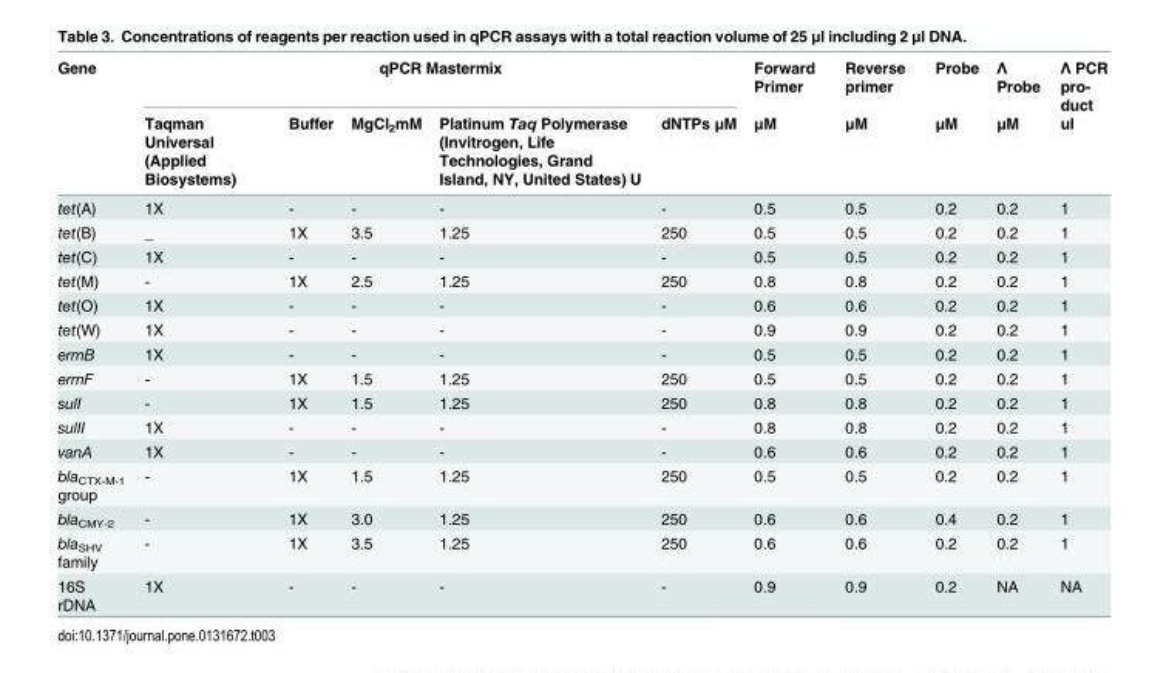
<table><thead><tr><td rowspan="2">Gene</td><td colspan="5">qPCR Mastermix</td><td rowspan="2">Forward Primer μM</td><td rowspan="2">Reverse primer μM</td><td rowspan="2">Probe μM</td><td rowspan="2">Λ Probe μM</td><td rowspan="2">Λ PCR pro- duct ul</td></tr><tr><td>Taqman Universal (Applied Biosystems)</td><td>Buffer</td><td>MgCl<sub>2</sub>mM</td><td>Platinum Taq Polymerase (Invitrogen, Life Technologies, Grand Island, NY, United States) U</td><td>dNTPs μM</td></tr></thead><tbody><tr><td>tet(A)</td><td>1X</td><td>-</td><td>-</td><td>-</td><td>-</td><td>0.5</td><td>0.5</td><td>0.2</td><td>0.2</td><td>1</td></tr><tr><td>tet(B)</td><td>_</td><td>1X</td><td>3.5</td><td>1.25</td><td>250</td><td>0.5</td><td>0.5</td><td>0.2</td><td>0.2</td><td>1</td></tr><tr><td>tet(C)</td><td>1X</td><td>-</td><td>-</td><td>-</td><td>-</td><td>0.5</td><td>0.5</td><td>0.2</td><td>0.2</td><td>1</td></tr><tr><td>tet(M)</td><td>-</td><td>1X</td><td>2.5</td><td>1.25</td><td>250</td><td>0.8</td><td>0.8</td><td>0.2</td><td>0.2</td><td>1</td></tr><tr><td>tet(O)</td><td>1X</td><td>-</td><td>-</td><td>-</td><td>-</td><td>0.6</td><td>0.6</td><td>0.2</td><td>0.2</td><td>1</td></tr><tr><td>tet(W)</td><td>1X</td><td>-</td><td>-</td><td>-</td><td>-</td><td>0.9</td><td>0.9</td><td>0.2</td><td>0.2</td><td>1</td></tr><tr><td>ermB</td><td>1X</td><td>-</td><td>-</td><td>-</td><td>-</td><td>0.5</td><td>0.5</td><td>0.2</td><td>0.2</td><td>1</td></tr><tr><td>ermF</td><td>-</td><td>1X</td><td>1.5</td><td>1.25</td><td>250</td><td>0.5</td><td>0.5</td><td>0.2</td><td>0.2</td><td>1</td></tr><tr><td>sulI</td><td>-</td><td>1X</td><td>1.5</td><td>1.25</td><td>250</td><td>0.8</td><td>0.8</td><td>0.2</td><td>0.2</td><td>1</td></tr><tr><td>sulII</td><td>1X</td><td>-</td><td>-</td><td>-</td><td>-</td><td>0.8</td><td>0.8</td><td>0.2</td><td>0.2</td><td>1</td></tr><tr><td>vanA</td><td>1X</td><td>-</td><td>-</td><td>-</td><td>-</td><td>0.6</td><td>0.6</td><td>0.2</td><td>0.2</td><td>1</td></tr><tr><td>bla<sub>CTX-M-1</sub> group</td><td>-</td><td>1X</td><td>1.5</td><td>1.25</td><td>250</td><td>0.5</td><td>0.5</td><td>0.2</td><td>0.2</td><td>1</td></tr><tr><td>bla<sub>CMY-2</sub></td><td>-</td><td>1X</td><td>3.0</td><td>1.25</td><td>250</td><td>0.6</td><td>0.6</td><td>0.4</td><td>0.2</td><td>1</td></tr><tr><td>bla<sub>SHV</sub> family</td><td>-</td><td>1X</td><td>3.5</td><td>1.25</td><td>250</td><td>0.6</td><td>0.6</td><td>0.2</td><td>0.2</td><td>1</td></tr><tr><td>16S rDNA</td><td>1X</td><td>-</td><td>-</td><td>-</td><td>-</td><td>0.9</td><td>0.9</td><td>0.2</td><td>NA</td><td>NA</td></tr></tbody></table>